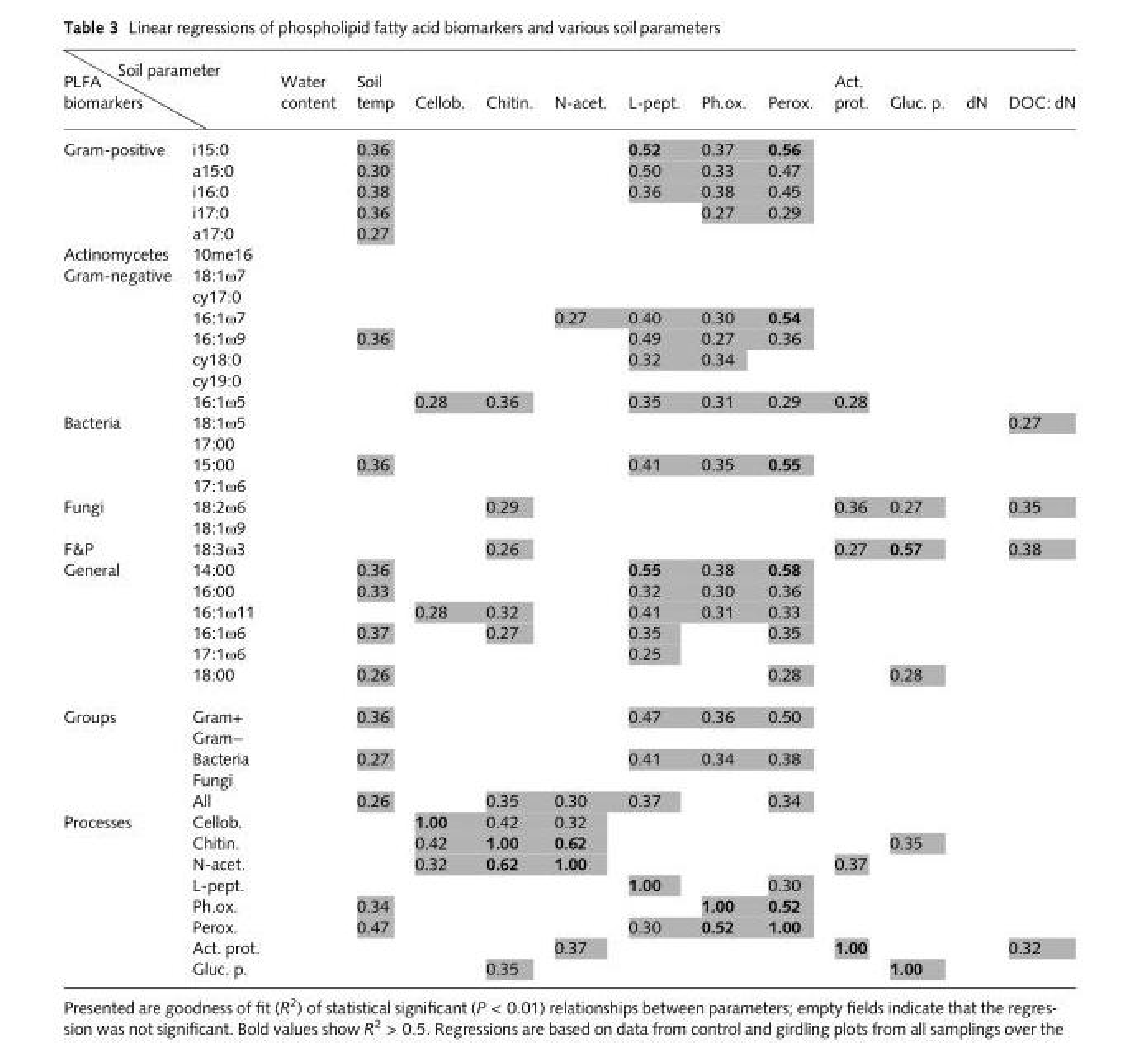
<table><thead><tr><td colspan="2">PLFA biomarkers Soil parameter</td><td rowspan="2">Water content</td><td rowspan="2">Soil temp 0.36</td><td rowspan="2">Cellob.</td><td rowspan="2">Chitin.</td><td rowspan="2">N-acet.</td><td rowspan="2">L-pept. 0.52</td><td rowspan="2">Ph.ox. 0.37</td><td rowspan="2">Perox. 0.56</td><td rowspan="2">Act. prot.</td><td rowspan="2">Gluc. p.</td><td rowspan="2">dN</td><td rowspan="2">DOC: dN</td></tr><tr><td>Gram-positive</td><td>i15:0</td></tr></thead><tbody><tr><td></td><td>a15:0</td><td></td><td>0.30</td><td></td><td></td><td></td><td>0.50</td><td>0.33</td><td>0.47</td><td></td><td></td><td></td><td></td></tr><tr><td></td><td>i16:0</td><td></td><td>0.38</td><td></td><td></td><td></td><td>0.36</td><td>0.38</td><td>0.45</td><td></td><td></td><td></td><td></td></tr><tr><td></td><td>i17:0</td><td></td><td>0.36</td><td></td><td></td><td></td><td></td><td>0.27</td><td>0.29</td><td></td><td></td><td></td><td></td></tr><tr><td></td><td>a17:0</td><td></td><td>0.27</td><td></td><td></td><td></td><td></td><td></td><td></td><td></td><td></td><td></td><td></td></tr><tr><td>Actinomycetes</td><td>10me16</td><td></td><td></td><td></td><td></td><td></td><td></td><td></td><td></td><td></td><td></td><td></td><td></td></tr><tr><td rowspan="7">Gram-negative</td><td>18:1ω7</td><td></td><td></td><td></td><td></td><td></td><td></td><td></td><td></td><td></td><td></td><td></td><td></td></tr><tr><td>cy17:0</td><td></td><td></td><td></td><td></td><td></td><td></td><td></td><td></td><td></td><td></td><td></td><td></td></tr><tr><td>16:1ω7</td><td></td><td></td><td></td><td></td><td>0.27</td><td>0.40</td><td>0.30</td><td>0.54</td><td></td><td></td><td></td><td></td></tr><tr><td>16:1ω9</td><td></td><td>0.36</td><td></td><td></td><td></td><td>0.49</td><td>0.27</td><td>0.36</td><td></td><td></td><td></td><td></td></tr><tr><td>cy18:0</td><td></td><td></td><td></td><td></td><td></td><td>0.32</td><td>0.34</td><td></td><td></td><td></td><td></td><td></td></tr><tr><td>cy19:0</td><td></td><td></td><td></td><td></td><td></td><td></td><td></td><td></td><td></td><td></td><td></td><td></td></tr><tr><td>16:1ω5</td><td></td><td></td><td>0.28</td><td>0.36</td><td></td><td>0.35</td><td>0.31</td><td>0.29</td><td>0.28</td><td></td><td></td><td></td></tr><tr><td rowspan="4">Bacteria</td><td>18:1ω5</td><td></td><td></td><td></td><td></td><td></td><td></td><td></td><td></td><td></td><td></td><td></td><td>0.27</td></tr><tr><td>17:00</td><td></td><td></td><td></td><td></td><td></td><td></td><td></td><td></td><td></td><td></td><td></td><td></td></tr><tr><td>15:00</td><td></td><td>0.36</td><td></td><td></td><td></td><td>0.41</td><td>0.35</td><td>0.55</td><td></td><td></td><td></td><td></td></tr><tr><td>17:1ω6</td><td></td><td></td><td></td><td></td><td></td><td></td><td></td><td></td><td></td><td></td><td></td><td></td></tr><tr><td rowspan="2">Fungi</td><td>18:2ω6</td><td></td><td></td><td></td><td>0.29</td><td></td><td></td><td></td><td></td><td>0.36</td><td>0.27</td><td></td><td>0.35</td></tr><tr><td>18:1ω9</td><td></td><td></td><td></td><td></td><td></td><td></td><td></td><td></td><td></td><td></td><td></td><td></td></tr><tr><td>F&amp;P</td><td>18:3ω3</td><td></td><td></td><td></td><td>0.26</td><td></td><td></td><td></td><td></td><td>0.27</td><td>0.57</td><td></td><td>0.38</td></tr><tr><td rowspan="6">General</td><td>14:00</td><td></td><td>0.36</td><td></td><td></td><td></td><td>0.55</td><td>0.38</td><td>0.58</td><td></td><td></td><td></td><td></td></tr><tr><td>16:00</td><td></td><td>0.33</td><td></td><td></td><td></td><td>0.32</td><td>0.30</td><td>0.36</td><td></td><td></td><td></td><td></td></tr><tr><td>16:1ω11</td><td></td><td></td><td>0.28</td><td>0.32</td><td></td><td>0.41</td><td>0.31</td><td>0.33</td><td></td><td></td><td></td><td></td></tr><tr><td>16:1ω6</td><td></td><td>0.37</td><td></td><td>0.27</td><td></td><td>0.35</td><td></td><td>0.35</td><td></td><td></td><td></td><td></td></tr><tr><td>17:1ω6</td><td></td><td></td><td></td><td></td><td></td><td>0.25</td><td></td><td></td><td></td><td></td><td></td><td></td></tr><tr><td>18:00</td><td></td><td>0.26</td><td></td><td></td><td></td><td></td><td></td><td>0.28</td><td></td><td>0.28</td><td></td><td></td></tr><tr><td rowspan="5">Groups</td><td>Gram+</td><td></td><td>0.36</td><td></td><td></td><td></td><td>0.47</td><td>0.36</td><td>0.50</td><td></td><td></td><td></td><td></td></tr><tr><td>Gram−</td><td></td><td></td><td></td><td></td><td></td><td></td><td></td><td></td><td></td><td></td><td></td><td></td></tr><tr><td>Bacteria</td><td></td><td>0.27</td><td></td><td></td><td></td><td>0.41</td><td>0.34</td><td>0.38</td><td></td><td></td><td></td><td></td></tr><tr><td>Fungi</td><td></td><td></td><td></td><td></td><td></td><td></td><td></td><td></td><td></td><td></td><td></td><td></td></tr><tr><td>All</td><td></td><td>0.26</td><td></td><td>0.35</td><td>0.30</td><td>0.37</td><td></td><td>0.34</td><td></td><td></td><td></td><td></td></tr><tr><td rowspan="8">Processes</td><td>Cellob.</td><td></td><td></td><td>1.00</td><td>0.42</td><td>0.32</td><td></td><td></td><td></td><td></td><td></td><td></td><td></td></tr><tr><td>Chitin.</td><td></td><td></td><td>0.42</td><td>1.00</td><td>0.62</td><td></td><td></td><td></td><td></td><td>0.35</td><td></td><td></td></tr><tr><td>N-acet.</td><td></td><td></td><td>0.32</td><td>0.62</td><td>1.00</td><td></td><td></td><td></td><td>0.37</td><td></td><td></td><td></td></tr><tr><td>L-pept.</td><td></td><td></td><td></td><td></td><td></td><td>1.00</td><td></td><td>0.30</td><td></td><td></td><td></td><td></td></tr><tr><td>Ph.ox.</td><td></td><td>0.34</td><td></td><td></td><td></td><td></td><td>1.00</td><td>0.52</td><td></td><td></td><td></td><td></td></tr><tr><td>Perox.</td><td></td><td>0.47</td><td></td><td></td><td></td><td>0.30</td><td>0.52</td><td>1.00</td><td></td><td></td><td></td><td></td></tr><tr><td>Act. prot.</td><td></td><td></td><td></td><td></td><td>0.37</td><td></td><td></td><td></td><td>1.00</td><td></td><td></td><td>0.32</td></tr><tr><td>Gluc. p.</td><td></td><td></td><td></td><td>0.35</td><td></td><td></td><td></td><td></td><td></td><td>1.00</td><td></td><td></td></tr></tbody></table>